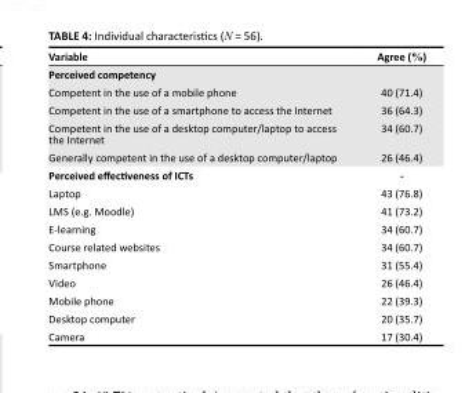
<table><thead><tr><td>Variable</td><td>Agree (%)</td></tr></thead><tbody><tr><td colspan="2">Perceived competency</td></tr><tr><td>Competent in the use of a mobile phone</td><td>40 (71.4)</td></tr><tr><td>Competent in the use of a smartphone to access the Internet</td><td>36 (64.3)</td></tr><tr><td>Competent in the use of a desktop computer/laptop to access the Internet</td><td>34 (60.7)</td></tr><tr><td>Generally competent in the use of a desktop computer/laptop</td><td>26 (46.4)</td></tr><tr><td>Perceived effectiveness of ICTs</td><td>-</td></tr><tr><td>Laptop</td><td>43 (76.8)</td></tr><tr><td>LMS (e.g. Moodle)</td><td>41 (73.2)</td></tr><tr><td>E-learning</td><td>34 (60.7)</td></tr><tr><td>Course related websites</td><td>34 (60.7)</td></tr><tr><td>Smartphone</td><td>31 (55.4)</td></tr><tr><td>Video</td><td>26 (46.4)</td></tr><tr><td>Mobile phone</td><td>22 (39.3)</td></tr><tr><td>Desktop computer</td><td>20 (35.7)</td></tr><tr><td>Camera</td><td>17 (30.4)</td></tr></tbody></table>